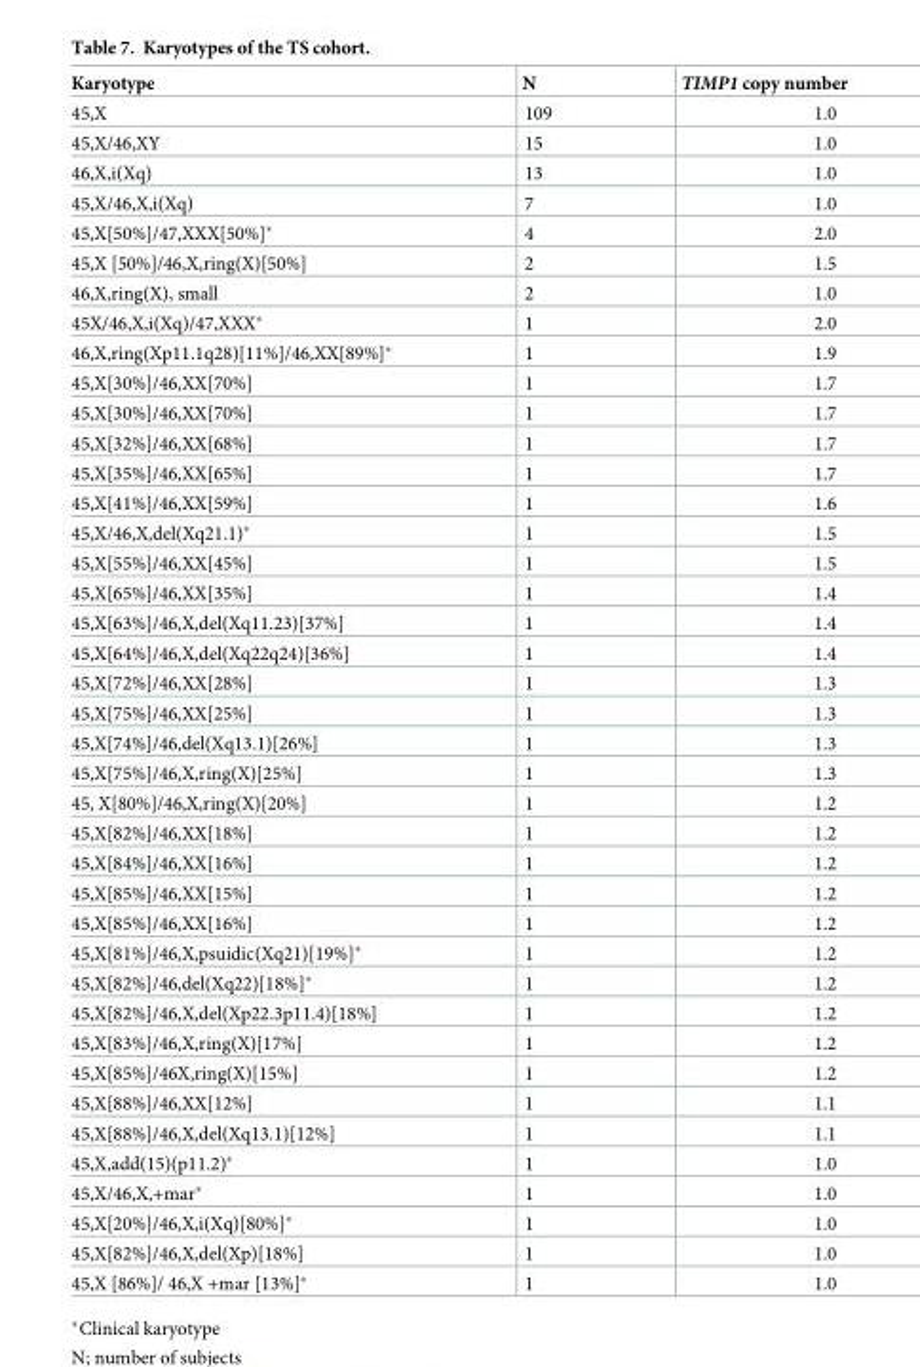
<table><thead><tr><td>Karyotype</td><td>N</td><td>TIMP1 copy number</td></tr></thead><tbody><tr><td>45,X</td><td>109</td><td>1.0</td></tr><tr><td>45,X/46,XY</td><td>15</td><td>1.0</td></tr><tr><td>46,X,i(Xq)</td><td>13</td><td>1.0</td></tr><tr><td>45,X/46,X,i(Xq)</td><td>7</td><td>1.0</td></tr><tr><td>45,X[50%]/47,XXX[50%]*</td><td>4</td><td>2.0</td></tr><tr><td>45,X [50%]/46,X,ring(X)[50%]</td><td>2</td><td>1.5</td></tr><tr><td>46,X,ring(X), small</td><td>2</td><td>1.0</td></tr><tr><td>45X/46,X,i(Xq)/47,XXX*</td><td>1</td><td>2.0</td></tr><tr><td>46,X,ring(Xp11.1q28)[11%]/46,XX[89%]*</td><td>1</td><td>1.9</td></tr><tr><td>45,X[30%]/46,XX[70%]</td><td>1</td><td>1.7</td></tr><tr><td>45,X[30%]/46,XX[70%]</td><td>1</td><td>1.7</td></tr><tr><td>45,X[32%]/46,XX[68%]</td><td>1</td><td>1.7</td></tr><tr><td>45,X[35%]/46,XX[65%]</td><td>1</td><td>1.7</td></tr><tr><td>45,X[41%]/46,XX[59%]</td><td>1</td><td>1.6</td></tr><tr><td>45,X/46,X,del(Xq21.1)*</td><td>1</td><td>1.5</td></tr><tr><td>45,X[55%]/46,XX[45%]</td><td>1</td><td>1.5</td></tr><tr><td>45,X[65%]/46,XX[35%]</td><td>1</td><td>1.4</td></tr><tr><td>45,X[63%]/46,X,del(Xq11.23)[37%]</td><td>1</td><td>1.4</td></tr><tr><td>45,X[64%]/46,X,del(Xq22q24)[36%]</td><td>1</td><td>1.4</td></tr><tr><td>45,X[72%]/46,XX[28%]</td><td>1</td><td>1.3</td></tr><tr><td>45,X[75%]/46,XX[25%]</td><td>1</td><td>1.3</td></tr><tr><td>45,X[74%]/46,del(Xq13.1)[26%]</td><td>1</td><td>1.3</td></tr><tr><td>45,X[75%]/46,X,ring(X)[25%]</td><td>1</td><td>1.3</td></tr><tr><td>45, X[80%]/46,X,ring(X)[20%]</td><td>1</td><td>1.2</td></tr><tr><td>45,X[82%]/46,XX[18%]</td><td>1</td><td>1.2</td></tr><tr><td>45,X[84%]/46,XX[16%]</td><td>1</td><td>1.2</td></tr><tr><td>45,X[85%]/46,XX[15%]</td><td>1</td><td>1.2</td></tr><tr><td>45,X[85%]/46,XX[16%]</td><td>1</td><td>1.2</td></tr><tr><td>45,X[81%]/46,X,psuidic(Xq21)[19%]*</td><td>1</td><td>1.2</td></tr><tr><td>45,X[82%]/46,del(Xq22)[18%]*</td><td>1</td><td>1.2</td></tr><tr><td>45,X[82%]/46,X,del(Xp22.3p11.4)[18%]</td><td>1</td><td>1.2</td></tr><tr><td>45,X[83%]/46,X,ring(X)[17%]</td><td>1</td><td>1.2</td></tr><tr><td>45,X[85%]/46X,ring(X)[15%]</td><td>1</td><td>1.2</td></tr><tr><td>45,X[88%]/46,XX[12%]</td><td>1</td><td>1.1</td></tr><tr><td>45,X[88%]/46,X,del(Xq13.1)[12%]</td><td>1</td><td>1.1</td></tr><tr><td>45,X,add(15)(p11.2)*</td><td>1</td><td>1.0</td></tr><tr><td>45,X/46,X,+mar*</td><td>1</td><td>1.0</td></tr><tr><td>45,X[20%]/46,X,i(Xq)[80%]*</td><td>1</td><td>1.0</td></tr><tr><td>45,X[82%]/46,X,del(Xp)[18%]</td><td>1</td><td>1.0</td></tr><tr><td>45,X [86%]/ 46,X +mar [13%]*</td><td>1</td><td>1.0</td></tr></tbody></table>